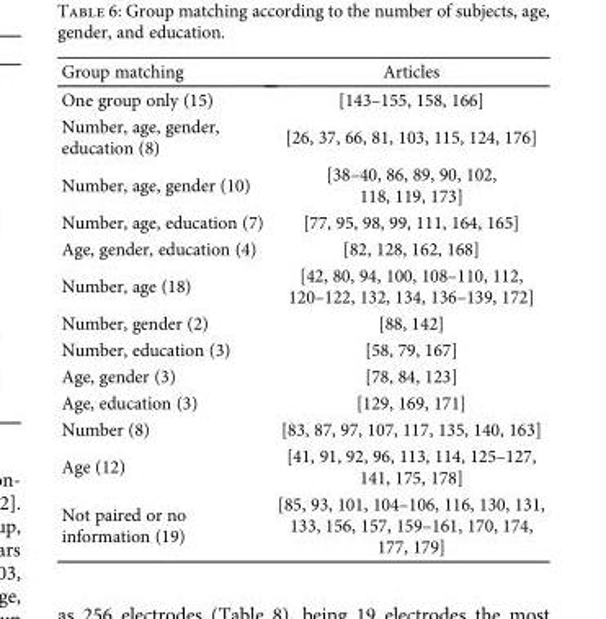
<table><thead><tr><td>Group matching</td><td>Articles</td></tr></thead><tbody><tr><td>One group only (15)</td><td>[143–155, 158, 166]</td></tr><tr><td>Number, age, gender, education (8)</td><td>[26, 37, 66, 81, 103, 115, 124, 176]</td></tr><tr><td>Number, age, gender (10)</td><td>[38–40, 86, 89, 90, 102, 118, 119, 173]</td></tr><tr><td>Number, age, education (7)</td><td>[77, 95, 98, 99, 111, 164, 165]</td></tr><tr><td>Age, gender, education (4)</td><td>[82, 128, 162, 168]</td></tr><tr><td>Number, age (18)</td><td>[42, 80, 94, 100, 108–110, 112, 120–122, 132, 134, 136–139, 172]</td></tr><tr><td>Number, gender (2)</td><td>[88, 142]</td></tr><tr><td>Number, education (3)</td><td>[58, 79, 167]</td></tr><tr><td>Age, gender (3)</td><td>[78, 84, 123]</td></tr><tr><td>Age, education (3)</td><td>[129, 169, 171]</td></tr><tr><td>Number (8)</td><td>[83, 87, 97, 107, 117, 135, 140, 163]</td></tr><tr><td>Age (12)</td><td>[41, 91, 92, 96, 113, 114, 125–127, 141, 175, 178]</td></tr><tr><td>Not paired or no information (19)</td><td>[85, 93, 101, 104–106, 116, 130, 131, 133, 156, 157, 159–161, 170, 174, 177, 179]</td></tr></tbody></table>